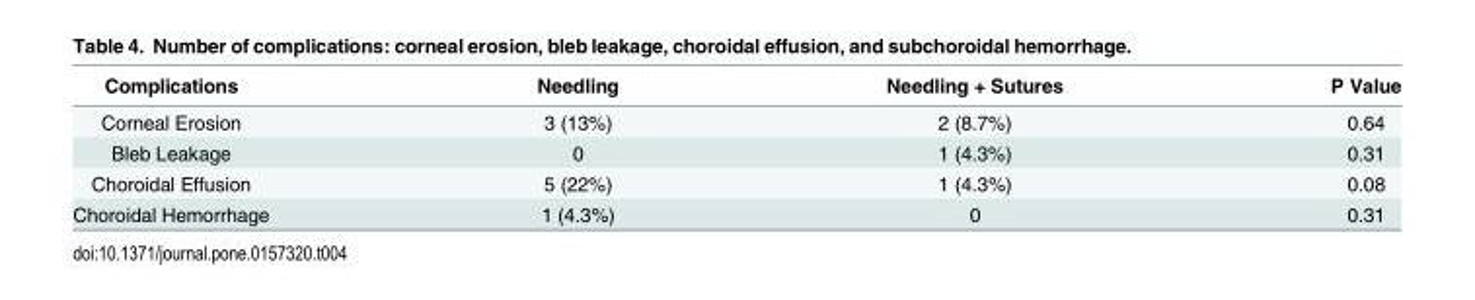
<table><thead><tr><td>Complications</td><td>Needling</td><td>Needling + Sutures</td><td>P Value</td></tr></thead><tbody><tr><td>Corneal Erosion</td><td>3 (13%)</td><td>2 (8.7%)</td><td>0.64</td></tr><tr><td>Bleb Leakage</td><td>0</td><td>1 (4.3%)</td><td>0.31</td></tr><tr><td>Choroidal Effusion</td><td>5 (22%)</td><td>1 (4.3%)</td><td>0.08</td></tr><tr><td>Choroidal Hemorrhage</td><td>1 (4.3%)</td><td>0</td><td>0.31</td></tr></tbody></table>